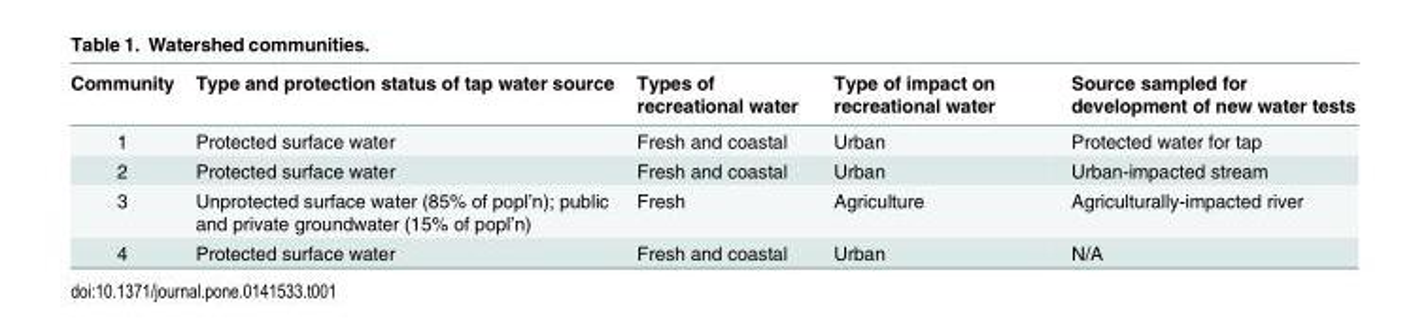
<table><thead><tr><td>Community</td><td>Type and protection status of tap water source</td><td>Types of recreational water</td><td>Type of impact on recreational water</td><td>Source sampled for development of new water tests</td></tr></thead><tbody><tr><td>1</td><td>Protected surface water</td><td>Fresh and coastal</td><td>Urban</td><td>Protected water for tap</td></tr><tr><td>2</td><td>Protected surface water</td><td>Fresh and coastal</td><td>Urban</td><td>Urban-impacted stream</td></tr><tr><td>3</td><td>Unprotected surface water (85% of popl’n); public and private groundwater (15% of popl’n)</td><td>Fresh</td><td>Agriculture</td><td>Agriculturally-impacted river</td></tr><tr><td>4</td><td>Protected surface water</td><td>Fresh and coastal</td><td>Urban</td><td>N/A</td></tr></tbody></table>